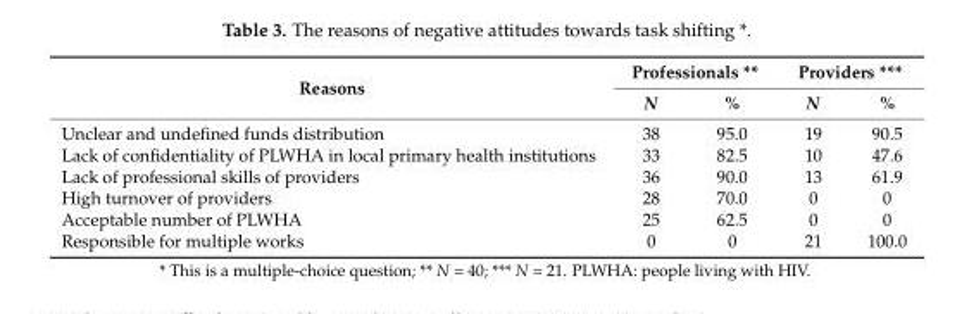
<table><thead><tr><td rowspan="2">Reasons</td><td colspan="2">Professionals **</td><td colspan="2">Providers ***</td></tr><tr><td>N</td><td>%</td><td>N</td><td>%</td></tr></thead><tbody><tr><td>Unclear and undefined funds distribution</td><td>38</td><td>95.0</td><td>19</td><td>90.5</td></tr><tr><td>Lack of confidentiality of PLWHA in local primary health institutions</td><td>33</td><td>82.5</td><td>10</td><td>47.6</td></tr><tr><td>Lack of professional skills of providers</td><td>36</td><td>90.0</td><td>13</td><td>61.9</td></tr><tr><td>High turnover of providers</td><td>28</td><td>70.0</td><td>0</td><td>0</td></tr><tr><td>Acceptable number of PLWHA</td><td>25</td><td>62.5</td><td>0</td><td>0</td></tr><tr><td>Responsible for multiple works</td><td>0</td><td>0</td><td>21</td><td>100.0</td></tr></tbody></table>